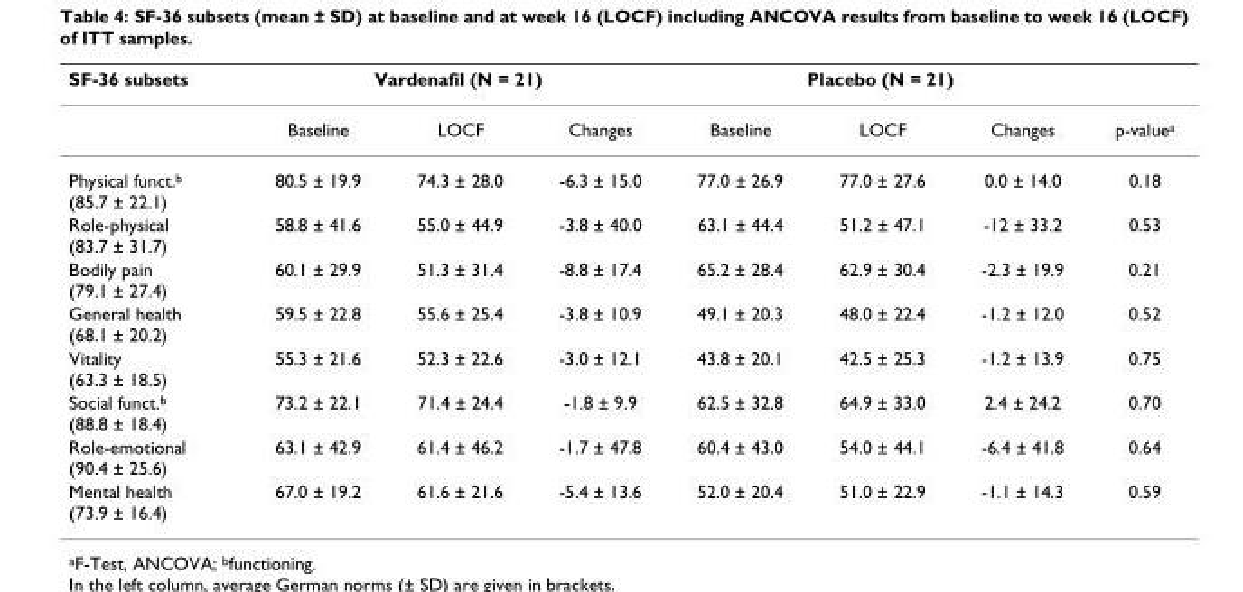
<table><thead><tr><td rowspan="2">SF-36 subsets</td><td colspan="3">Vardenafil (N = 21)</td><td colspan="3">Placebo (N = 21)</td><td rowspan="2">p-value<sup>a</sup></td></tr><tr><td>Baseline</td><td>LOCF</td><td>Changes</td><td>Baseline</td><td>LOCF</td><td>Changes</td></tr></thead><tbody><tr><td>Physical funct.<sup>b</sup> (85.7 ± 22.1)</td><td>80.5 ± 19.9</td><td>74.3 ± 28.0</td><td>-6.3 ± 15.0</td><td>77.0 ± 26.9</td><td>77.0 ± 27.6</td><td>0.0 ± 14.0</td><td>0.18</td></tr><tr><td>Role-physical (83.7 ± 31.7)</td><td>58.8 ± 41.6</td><td>55.0 ± 44.9</td><td>-3.8 ± 40.0</td><td>63.1 ± 44.4</td><td>51.2 ± 47.1</td><td>-12 ± 33.2</td><td>0.53</td></tr><tr><td>Bodily pain (79.1 ± 27.4)</td><td>60.1 ± 29.9</td><td>51.3 ± 31.4</td><td>-8.8 ± 17.4</td><td>65.2 ± 28.4</td><td>62.9 ± 30.4</td><td>-2.3 ± 19.9</td><td>0.21</td></tr><tr><td>General health (68.1 ± 20.2)</td><td>59.5 ± 22.8</td><td>55.6 ± 25.4</td><td>-3.8 ± 10.9</td><td>49.1 ± 20.3</td><td>48.0 ± 22.4</td><td>-1.2 ± 12.0</td><td>0.52</td></tr><tr><td>Vitality (63.3 ± 18.5)</td><td>55.3 ± 21.6</td><td>52.3 ± 22.6</td><td>-3.0 ± 12.1</td><td>43.8 ± 20.1</td><td>42.5 ± 25.3</td><td>-1.2 ± 13.9</td><td>0.75</td></tr><tr><td>Social funct.<sup>b</sup> (88.8 ± 18.4)</td><td>73.2 ± 22.1</td><td>71.4 ± 24.4</td><td>-1.8 ± 9.9</td><td>62.5 ± 32.8</td><td>64.9 ± 33.0</td><td>2.4 ± 24.2</td><td>0.70</td></tr><tr><td>Role-emotional (90.4 ± 25.6)</td><td>63.1 ± 42.9</td><td>61.4 ± 46.2</td><td>-1.7 ± 47.8</td><td>60.4 ± 43.0</td><td>54.0 ± 44.1</td><td>-6.4 ± 41.8</td><td>0.64</td></tr><tr><td>Mental health (73.9 ± 16.4)</td><td>67.0 ± 19.2</td><td>61.6 ± 21.6</td><td>-5.4 ± 13.6</td><td>52.0 ± 20.4</td><td>51.0 ± 22.9</td><td>-1.1 ± 14.3</td><td>0.59</td></tr></tbody></table>